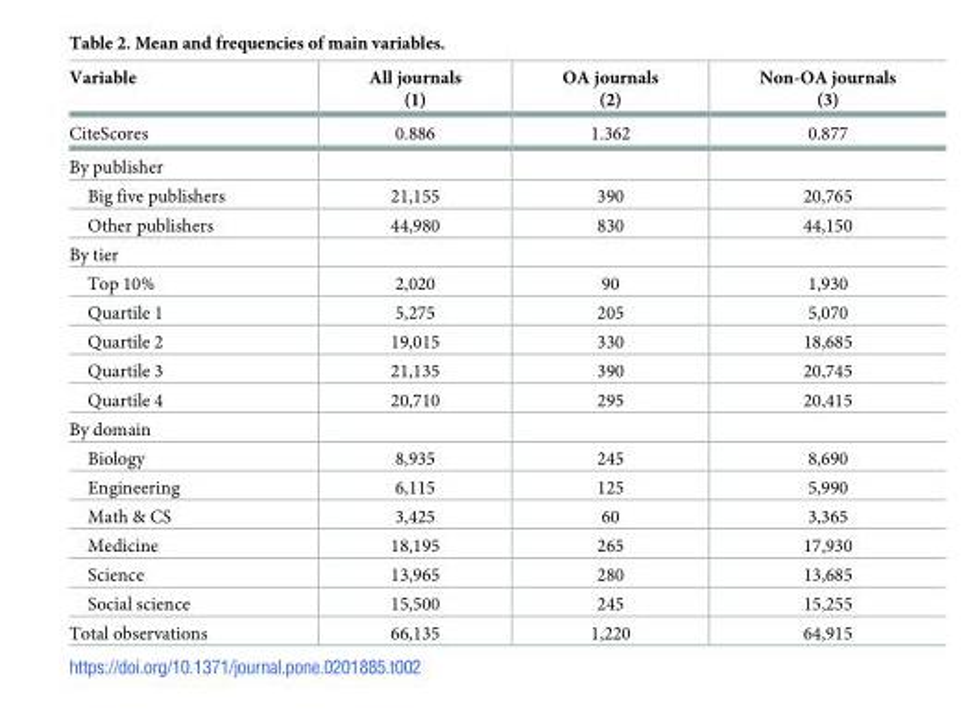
<table><thead><tr><td>Variable</td><td>All journals (1)</td><td>OA journals (2)</td><td>Non-OA journals (3)</td></tr></thead><tbody><tr><td>CiteScores</td><td>0.886</td><td>1.362</td><td>0.877</td></tr><tr><td colspan="4">By publisher</td></tr><tr><td>Big five publishers</td><td>21,155</td><td>390</td><td>20,765</td></tr><tr><td>Other publishers</td><td>44,980</td><td>830</td><td>44,150</td></tr><tr><td colspan="4">By tier</td></tr><tr><td>Top 10%</td><td>2,020</td><td>90</td><td>1,930</td></tr><tr><td>Quartile 1</td><td>5,275</td><td>205</td><td>5,070</td></tr><tr><td>Quartile 2</td><td>19,015</td><td>330</td><td>18,685</td></tr><tr><td>Quartile 3</td><td>21,135</td><td>390</td><td>20,745</td></tr><tr><td>Quartile 4</td><td>20,710</td><td>295</td><td>20,415</td></tr><tr><td colspan="4">By domain</td></tr><tr><td>Biology</td><td>8,935</td><td>245</td><td>8,690</td></tr><tr><td>Engineering</td><td>6,115</td><td>125</td><td>5,990</td></tr><tr><td>Math &amp; CS</td><td>3,425</td><td>60</td><td>3,365</td></tr><tr><td>Medicine</td><td>18,195</td><td>265</td><td>17,930</td></tr><tr><td>Science</td><td>13,965</td><td>280</td><td>13,685</td></tr><tr><td>Social science</td><td>15,500</td><td>245</td><td>15,255</td></tr><tr><td>Total observations</td><td>66,135</td><td>1,220</td><td>64,915</td></tr></tbody></table>